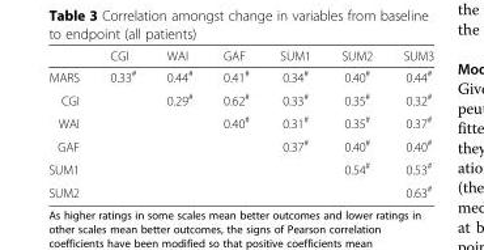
<table><thead><tr><td></td><td>CGI</td><td>WAI</td><td>GAF</td><td>SUM1</td><td>SUM2</td><td>SUM3</td></tr></thead><tbody><tr><td>MARS</td><td>0.33<sup>#</sup></td><td>0.44<sup>#</sup></td><td>0.41<sup>#</sup></td><td>0.34<sup>#</sup></td><td>0.40<sup>#</sup></td><td>0.44<sup>#</sup></td></tr><tr><td>CGI</td><td></td><td>0.29<sup>#</sup></td><td>0.62<sup>#</sup></td><td>0.33<sup>#</sup></td><td>0.35<sup>#</sup></td><td>0.32<sup>#</sup></td></tr><tr><td>WAI</td><td></td><td></td><td>0.40<sup>#</sup></td><td>0.31<sup>#</sup></td><td>0.35<sup>#</sup></td><td>0.37<sup>#</sup></td></tr><tr><td>GAF</td><td></td><td></td><td></td><td>0.37<sup>#</sup></td><td>0.40<sup>#</sup></td><td>0.40<sup>#</sup></td></tr><tr><td>SUM1</td><td></td><td></td><td></td><td></td><td>0.54<sup>#</sup></td><td>0.53<sup>#</sup></td></tr><tr><td>SUM2</td><td></td><td></td><td></td><td></td><td></td><td>0.63<sup>#</sup></td></tr></tbody></table>